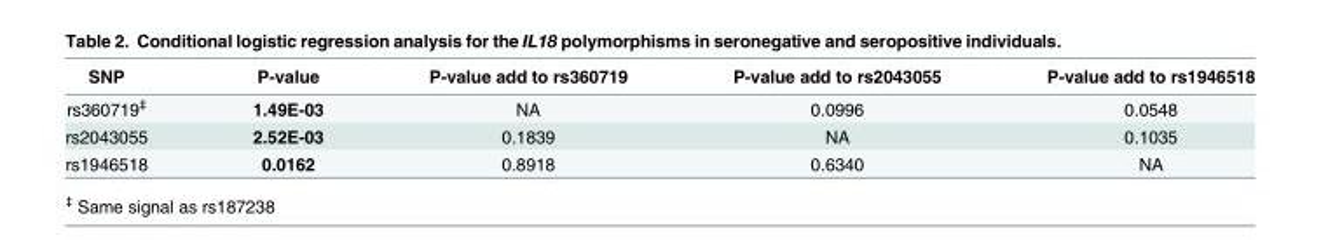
<table><thead><tr><td>SNP</td><td>P-value</td><td>P-value add to rs360719</td><td>P-value add to rs2043055</td><td>P-value add to rs1946518</td></tr></thead><tbody><tr><td>rs360719<sup>‡</sup></td><td>1.49E-03</td><td>NA</td><td>0.0996</td><td>0.0548</td></tr><tr><td>rs2043055</td><td>2.52E-03</td><td>0.1839</td><td>NA</td><td>0.1035</td></tr><tr><td>rs1946518</td><td>0.0162</td><td>0.8918</td><td>0.6340</td><td>NA</td></tr></tbody></table>